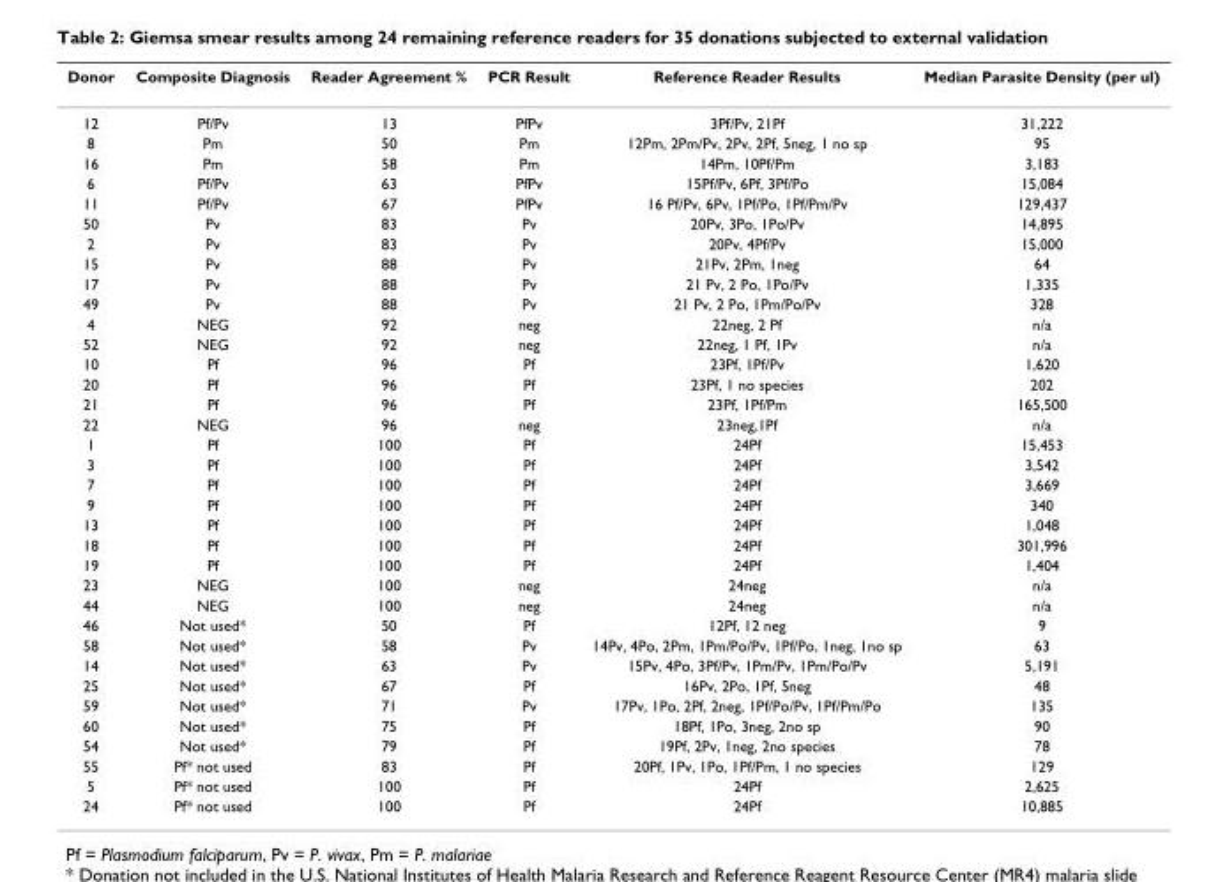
<table><thead><tr><td>Donor</td><td>Composite Diagnosis</td><td>Reader Agreement %</td><td>PCR Result</td><td>Reference Reader Results</td><td>Median Parasite Density (per ul)</td></tr></thead><tbody><tr><td>12</td><td>Pf/Pv</td><td>13</td><td>PfPv</td><td>3Pf/Pv, 21Pf</td><td>31,222</td></tr><tr><td>8</td><td>Pm</td><td>50</td><td>Pm</td><td>12Pm, 2Pm/Pv, 2Pv, 2Pf, 5neg, 1 no sp</td><td>95</td></tr><tr><td>16</td><td>Pm</td><td>58</td><td>Pm</td><td>14Pm, 10Pf/Pm</td><td>3,183</td></tr><tr><td>6</td><td>Pf/Pv</td><td>63</td><td>PfPv</td><td>15Pf/Pv, 6Pf, 3Pf/Po</td><td>15,084</td></tr><tr><td>11</td><td>Pf/Pv</td><td>67</td><td>PfPv</td><td>16 Pf/Pv, 6Pv, 1Pf/Po, 1Pf/Pm/Pv</td><td>129,437</td></tr><tr><td>50</td><td>Pv</td><td>83</td><td>Pv</td><td>20Pv, 3Po, 1Po/Pv</td><td>14,895</td></tr><tr><td>2</td><td>Pv</td><td>83</td><td>Pv</td><td>20Pv, 4Pf/Pv</td><td>15,000</td></tr><tr><td>15</td><td>Pv</td><td>88</td><td>Pv</td><td>21Pv, 2Pm, 1neg</td><td>64</td></tr><tr><td>17</td><td>Pv</td><td>88</td><td>Pv</td><td>21 Pv, 2 Po, 1Po/Pv</td><td>1,335</td></tr><tr><td>49</td><td>Pv</td><td>88</td><td>Pv</td><td>21 Pv, 2 Po, 1Pm/Po/Pv</td><td>328</td></tr><tr><td>4</td><td>NEG</td><td>92</td><td>neg</td><td>22neg, 2 Pf</td><td>n/a</td></tr><tr><td>52</td><td>NEG</td><td>92</td><td>neg</td><td>22neg, 1 Pf, 1Pv</td><td>n/a</td></tr><tr><td>10</td><td>Pf</td><td>96</td><td>Pf</td><td>23Pf, 1Pf/Pv</td><td>1,620</td></tr><tr><td>20</td><td>Pf</td><td>96</td><td>Pf</td><td>23Pf, 1 no species</td><td>202</td></tr><tr><td>21</td><td>Pf</td><td>96</td><td>Pf</td><td>23Pf, 1Pf/Pm</td><td>165,500</td></tr><tr><td>22</td><td>NEG</td><td>96</td><td>neg</td><td>23neg,1Pf</td><td>n/a</td></tr><tr><td>1</td><td>Pf</td><td>100</td><td>Pf</td><td>24Pf</td><td>15,453</td></tr><tr><td>3</td><td>Pf</td><td>100</td><td>Pf</td><td>24Pf</td><td>3,542</td></tr><tr><td>7</td><td>Pf</td><td>100</td><td>Pf</td><td>24Pf</td><td>3,669</td></tr><tr><td>9</td><td>Pf</td><td>100</td><td>Pf</td><td>24Pf</td><td>340</td></tr><tr><td>13</td><td>Pf</td><td>100</td><td>Pf</td><td>24Pf</td><td>1,048</td></tr><tr><td>18</td><td>Pf</td><td>100</td><td>Pf</td><td>24Pf</td><td>301,996</td></tr><tr><td>19</td><td>Pf</td><td>100</td><td>Pf</td><td>24Pf</td><td>1,404</td></tr><tr><td>23</td><td>NEG</td><td>100</td><td>neg</td><td>24neg</td><td>n/a</td></tr><tr><td>44</td><td>NEG</td><td>100</td><td>neg</td><td>24neg</td><td>n/a</td></tr><tr><td>46</td><td>Not used*</td><td>50</td><td>Pf</td><td>12Pf, 12 neg</td><td>9</td></tr><tr><td>58</td><td>Not used*</td><td>58</td><td>Pv</td><td>14Pv, 4Po, 2Pm, 1Pm/Po/Pv, 1Pf/Po, 1neg, 1no sp</td><td>63</td></tr><tr><td>14</td><td>Not used*</td><td>63</td><td>Pv</td><td>15Pv, 4Po, 3Pf/Pv, 1Pm/Pv, 1Pm/Po/Pv</td><td>5,191</td></tr><tr><td>25</td><td>Not used*</td><td>67</td><td>Pf</td><td>16Pv, 2Po, 1Pf, 5neg</td><td>48</td></tr><tr><td>59</td><td>Not used*</td><td>71</td><td>Pv</td><td>17Pv, 1Po, 2Pf, 2neg, 1Pf/Po/Pv, 1Pf/Pm/Po</td><td>135</td></tr><tr><td>60</td><td>Not used*</td><td>75</td><td>Pf</td><td>18Pf, 1Po, 3neg, 2no sp</td><td>90</td></tr><tr><td>54</td><td>Not used*</td><td>79</td><td>Pf</td><td>19Pf, 2Pv, 1neg, 2no species</td><td>78</td></tr><tr><td>55</td><td>Pf* not used</td><td>83</td><td>Pf</td><td>20Pf, 1Pv, 1Po, 1Pf/Pm, 1 no species</td><td>129</td></tr><tr><td>5</td><td>Pf* not used</td><td>100</td><td>Pf</td><td>24Pf</td><td>2,625</td></tr><tr><td>24</td><td>Pf* not used</td><td>100</td><td>Pf</td><td>24Pf</td><td>10,885</td></tr></tbody></table>